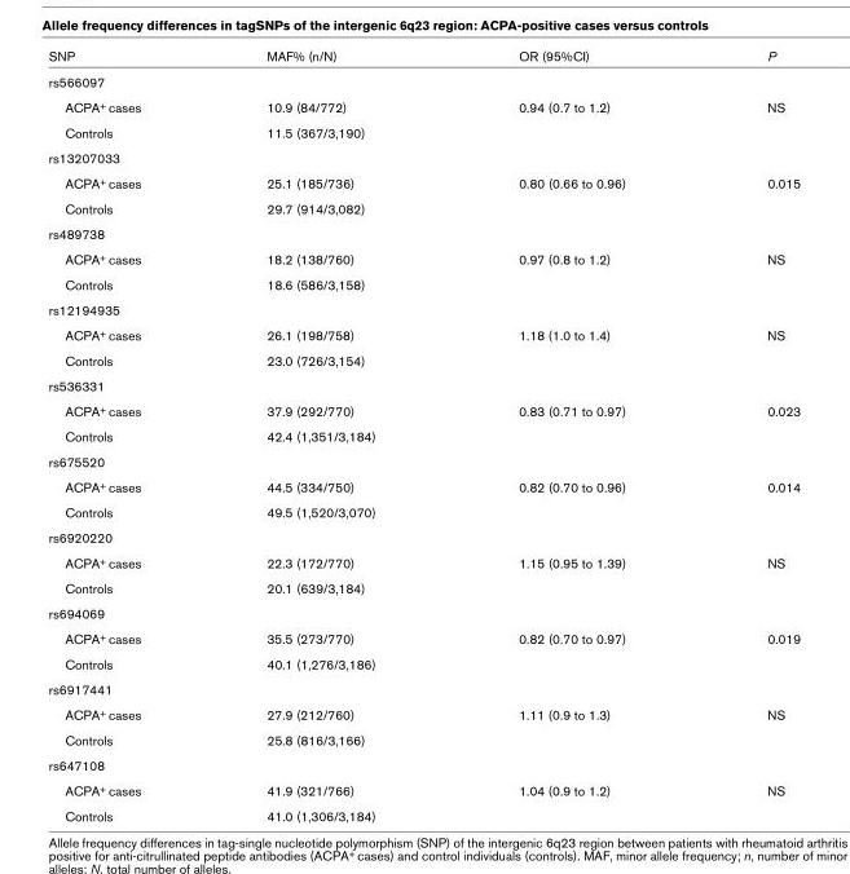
<table><thead><tr><td>SNP</td><td>MAF% (n/N)</td><td>OR (95%CI)</td><td>P</td></tr></thead><tbody><tr><td colspan="4">rs566097</td></tr><tr><td>ACPA<sup>+</sup> cases</td><td>10.9 (84/772)</td><td>0.94 (0.7 to 1.2)</td><td>NS</td></tr><tr><td>Controls</td><td>11.5 (367/3,190)</td><td></td><td></td></tr><tr><td colspan="4">rs13207033</td></tr><tr><td>ACPA<sup>+</sup> cases</td><td>25.1 (185/736)</td><td>0.80 (0.66 to 0.96)</td><td>0.015</td></tr><tr><td>Controls</td><td>29.7 (914/3,082)</td><td></td><td></td></tr><tr><td colspan="4">rs489738</td></tr><tr><td>ACPA<sup>+</sup> cases</td><td>18.2 (138/760)</td><td>0.97 (0.8 to 1.2)</td><td>NS</td></tr><tr><td>Controls</td><td>18.6 (586/3,158)</td><td></td><td></td></tr><tr><td colspan="4">rs12194935</td></tr><tr><td>ACPA<sup>+</sup> cases</td><td>26.1 (198/758)</td><td>1.18 (1.0 to 1.4)</td><td>NS</td></tr><tr><td>Controls</td><td>23.0 (726/3,154)</td><td></td><td></td></tr><tr><td colspan="4">rs536331</td></tr><tr><td>ACPA<sup>+</sup> cases</td><td>37.9 (292/770)</td><td>0.83 (0.71 to 0.97)</td><td>0.023</td></tr><tr><td>Controls</td><td>42.4 (1,351/3,184)</td><td></td><td></td></tr><tr><td colspan="4">rs675520</td></tr><tr><td>ACPA<sup>+</sup> cases</td><td>44.5 (334/750)</td><td>0.82 (0.70 to 0.96)</td><td>0.014</td></tr><tr><td>Controls</td><td>49.5 (1,520/3,070)</td><td></td><td></td></tr><tr><td colspan="4">rs6920220</td></tr><tr><td>ACPA<sup>+</sup> cases</td><td>22.3 (172/770)</td><td>1.15 (0.95 to 1.39)</td><td>NS</td></tr><tr><td>Controls</td><td>20.1 (639/3,184)</td><td></td><td></td></tr><tr><td colspan="4">rs694069</td></tr><tr><td>ACPA<sup>+</sup> cases</td><td>35.5 (273/770)</td><td>0.82 (0.70 to 0.97)</td><td>0.019</td></tr><tr><td>Controls</td><td>40.1 (1,276/3,186)</td><td></td><td></td></tr><tr><td colspan="4">rs6917441</td></tr><tr><td>ACPA<sup>+</sup> cases</td><td>27.9 (212/760)</td><td>1.11 (0.9 to 1.3)</td><td>NS</td></tr><tr><td>Controls</td><td>25.8 (816/3,166)</td><td></td><td></td></tr><tr><td colspan="4">rs647108</td></tr><tr><td>ACPA<sup>+</sup> cases</td><td>41.9 (321/766)</td><td>1.04 (0.9 to 1.2)</td><td>NS</td></tr><tr><td>Controls</td><td>41.0 (1,306/3,184)</td><td></td><td></td></tr></tbody></table>